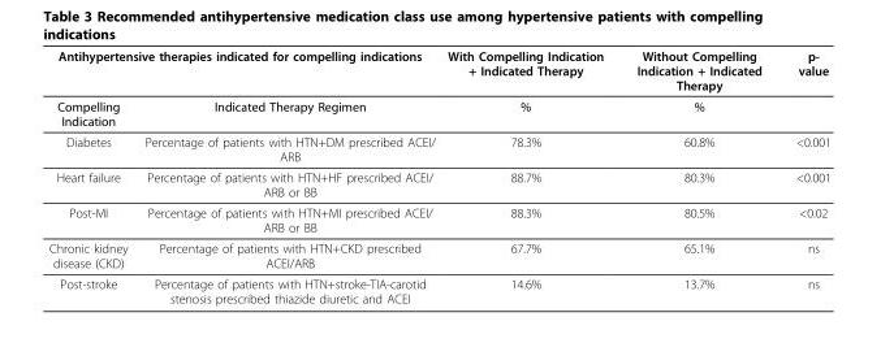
<table><thead><tr><td colspan="2">Antihypertensive therapies indicated for compelling indications</td><td rowspan="2">With Compelling Indication + Indicated Therapy %</td><td rowspan="2">Without Compelling Indication + Indicated Therapy %</td><td rowspan="2">p- value</td></tr><tr><td>Compelling Indication</td><td>Indicated Therapy Regimen</td></tr></thead><tbody><tr><td>Diabetes</td><td>Percentage of patients with HTN+DM prescribed ACEI/ ARB</td><td>78.3%</td><td>60.8%</td><td>&lt;0.001</td></tr><tr><td>Heart failure</td><td>Percentage of patients with HTN+HF prescribed ACEI/ ARB or BB</td><td>88.7%</td><td>80.3%</td><td>&lt;0.001</td></tr><tr><td>Post-MI</td><td>Percentage of patients with HTN+MI prescribed ACEI/ ARB or BB</td><td>88.3%</td><td>80.5%</td><td>&lt;0.02</td></tr><tr><td>Chronic kidney disease (CKD)</td><td>Percentage of patients with HTN+CKD prescribed ACEI/ARB</td><td>67.7%</td><td>65.1%</td><td>ns</td></tr><tr><td>Post-stroke</td><td>Percentage of patients with HTN+stroke-TIA-carotid stenosis prescribed thiazide diuretic and ACEI</td><td>14.6%</td><td>13.7%</td><td>ns</td></tr></tbody></table>